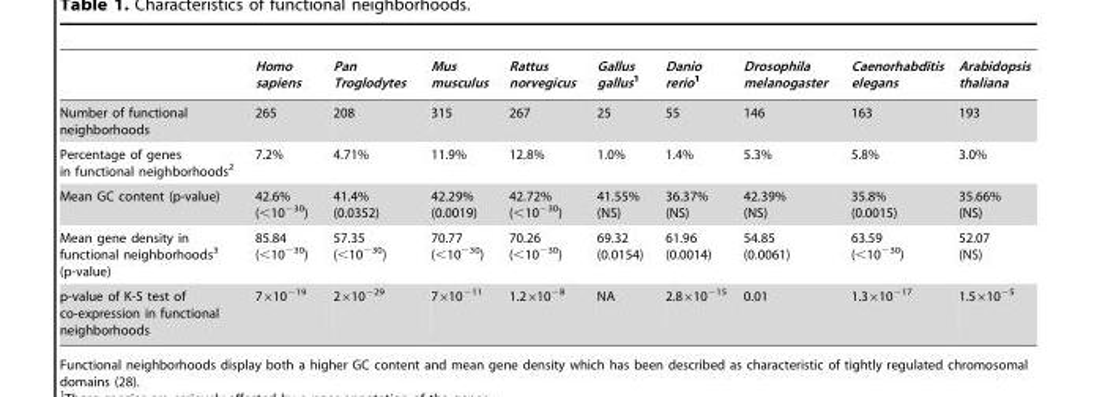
<table><thead><tr><td></td><td>Homo sapiens</td><td>Pan Troglodytes</td><td>Mus musculus</td><td>Rattus norvegicus</td><td>Gallus gallus1</td><td>Danio rerio1</td><td>Drosophila melanogaster</td><td>Caenorhabditis elegans</td><td>Arabidopsis thaliana</td></tr></thead><tbody><tr><td>Number of functional neighborhoods</td><td>265</td><td>208</td><td>315</td><td>267</td><td>25</td><td>55</td><td>146</td><td>163</td><td>193</td></tr><tr><td>Percentage of genes in functional neighborhoods<sup>2</sup></td><td>7.2%</td><td>4.71%</td><td>11.9%</td><td>12.8%</td><td>1.0%</td><td>1.4%</td><td>5.3%</td><td>5.8%</td><td>3.0%</td></tr><tr><td>Mean GC content (p-value)</td><td>42.6% (&lt;10<sup>−30</sup>)</td><td>41.4% (0.0352)</td><td>42.29% (0.0019)</td><td>42.72% (&lt;10<sup>−30</sup>)</td><td>41.55% (NS)</td><td>36.37% (NS)</td><td>42.39% (NS)</td><td>35.8% (0.0015)</td><td>35.66% (NS)</td></tr><tr><td>Mean gene density in functional neighborhoods<sup>3</sup> (p-value)</td><td>85.84 (&lt;10<sup>−30</sup>)</td><td>57.35 (&lt;10<sup>−30</sup>)</td><td>70.77 (&lt;10<sup>−30</sup>)</td><td>70.26 (&lt;10<sup>−30</sup>)</td><td>69.32 (0.0154)</td><td>61.96 (0.0014)</td><td>54.85 (0.0061)</td><td>63.59 (&lt;10<sup>−30</sup>)</td><td>52.07 (NS)</td></tr><tr><td>p-value of K-S test of co-expression in functional neighborhoods</td><td>7×10<sup>−19</sup></td><td>2×10<sup>−29</sup></td><td>7×10<sup>−11</sup></td><td>1.2×10<sup>−8</sup></td><td>NA</td><td>2.8×10<sup>−15</sup></td><td>0.01</td><td>1.3×10<sup>−17</sup></td><td>1.5×10<sup>−5</sup></td></tr></tbody></table>